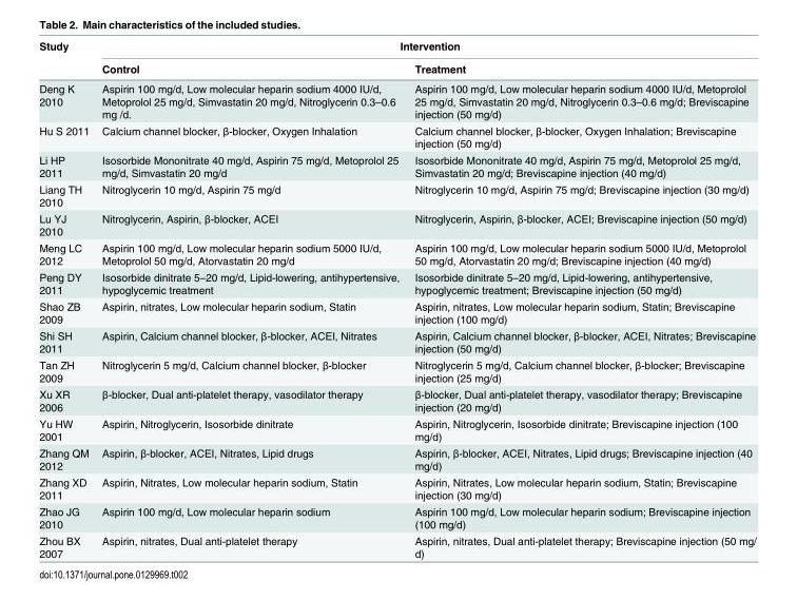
<table><thead><tr><td rowspan="2">Study</td><td colspan="2">Intervention</td></tr><tr><td>Control</td><td>Treatment</td></tr></thead><tbody><tr><td>Deng K 2010</td><td>Aspirin 100 mg/d, Low molecular heparin sodium 4000 IU/d, Metoprolol 25 mg/d, Simvastatin 20 mg/d, Nitroglycerin 0.3–0.6 mg /d.</td><td>Aspirin 100 mg/d, Low molecular heparin sodium 4000 IU/d, Metoprolol 25 mg/d, Simvastatin 20 mg/d, Nitroglycerin 0.3–0.6 mg/d; Breviscapine injection (50 mg/d)</td></tr><tr><td>Hu S 2011</td><td>Calcium channel blocker, β-blocker, Oxygen Inhalation</td><td>Calcium channel blocker, β-blocker, Oxygen Inhalation; Breviscapine injection (50 mg/d)</td></tr><tr><td>Li HP 2011</td><td>Isosorbide Mononitrate 40 mg/d, Aspirin 75 mg/d, Metoprolol 25 mg/d, Simvastatin 20 mg/d</td><td>Isosorbide Mononitrate 40 mg/d, Aspirin 75 mg/d, Metoprolol 25 mg/d, Simvastatin 20 mg/d; Breviscapine injection (40 mg/d)</td></tr><tr><td>Liang TH 2010</td><td>Nitroglycerin 10 mg/d, Aspirin 75 mg/d</td><td>Nitroglycerin 10 mg/d, Aspirin 75 mg/d; Breviscapine injection (30 mg/d)</td></tr><tr><td>Lu YJ 2010</td><td>Nitroglycerin, Aspirin, β-blocker, ACEI</td><td>Nitroglycerin, Aspirin, β-blocker, ACEI; Breviscapine injection (50 mg/d)</td></tr><tr><td>Meng LC 2012</td><td>Aspirin 100 mg/d, Low molecular heparin sodium 5000 IU/d, Metoprolol 50 mg/d, Atorvastatin 20 mg/d</td><td>Aspirin 100 mg/d, Low molecular heparin sodium 5000 IU/d, Metoprolol 50 mg/d, Atorvastatin 20 mg/d; Breviscapine injection (40 mg/d)</td></tr><tr><td>Peng DY 2011</td><td>Isosorbide dinitrate 5–20 mg/d, Lipid-lowering, antihypertensive, hypoglycemic treatment</td><td>Isosorbide dinitrate 5–20 mg/d, Lipid-lowering, antihypertensive, hypoglycemic treatment; Breviscapine injection (50 mg/d)</td></tr><tr><td>Shao ZB 2009</td><td>Aspirin, nitrates, Low molecular heparin sodium, Statin</td><td>Aspirin, nitrates, Low molecular heparin sodium, Statin; Breviscapine injection (100 mg/d)</td></tr><tr><td>Shi SH 2011</td><td>Aspirin, Calcium channel blocker, β-blocker, ACEI, Nitrates</td><td>Aspirin, Calcium channel blocker, β-blocker, ACEI, Nitrates; Breviscapine injection (50 mg/d)</td></tr><tr><td>Tan ZH 2009</td><td>Nitroglycerin 5 mg/d, Calcium channel blocker, β-blocker</td><td>Nitroglycerin 5 mg/d, Calcium channel blocker, β-blocker; Breviscapine injection (25 mg/d)</td></tr><tr><td>Xu XR 2006</td><td>β-blocker, Dual anti-platelet therapy, vasodilator therapy</td><td>β-blocker, Dual anti-platelet therapy, vasodilator therapy; Breviscapine injection (20 mg/d)</td></tr><tr><td>Yu HW 2001</td><td>Aspirin, Nitroglycerin, Isosorbide dinitrate</td><td>Aspirin, Nitroglycerin, Isosorbide dinitrate; Breviscapine injection (100 mg/d)</td></tr><tr><td>Zhang QM 2012</td><td>Aspirin, β-blocker, ACEI, Nitrates, Lipid drugs</td><td>Aspirin, β-blocker, ACEI, Nitrates, Lipid drugs; Breviscapine injection (40 mg/d)</td></tr><tr><td>Zhang XD 2011</td><td>Aspirin, Nitrates, Low molecular heparin sodium, Statin</td><td>Aspirin, Nitrates, Low molecular heparin sodium, Statin; Breviscapine injection (30 mg/d)</td></tr><tr><td>Zhao JG 2010</td><td>Aspirin 100 mg/d, Low molecular heparin sodium</td><td>Aspirin 100 mg/d, Low molecular heparin sodium; Breviscapine injection (100 mg/d)</td></tr><tr><td>Zhou BX 2007</td><td>Aspirin, nitrates, Dual anti-platelet therapy</td><td>Aspirin, nitrates, Dual anti-platelet therapy; Breviscapine injection (50 mg/ d)</td></tr></tbody></table>